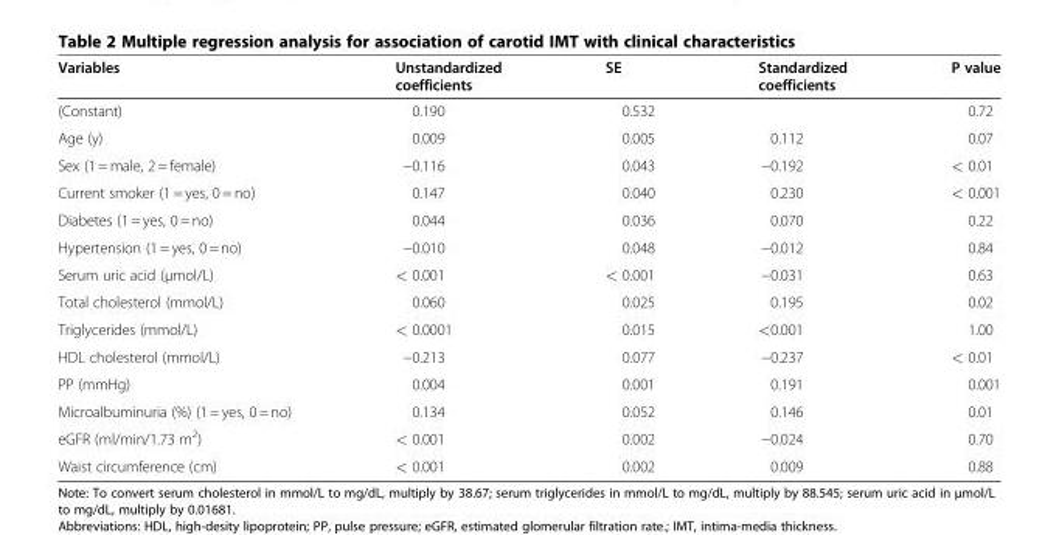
<table><thead><tr><td>Variables</td><td>Unstandardized coefficients</td><td>SE</td><td>Standardized coefficients</td><td>P value</td></tr></thead><tbody><tr><td>(Constant)</td><td>0.190</td><td>0.532</td><td></td><td>0.72</td></tr><tr><td>Age (y)</td><td>0.009</td><td>0.005</td><td>0.112</td><td>0.07</td></tr><tr><td>Sex (1 = male, 2 = female)</td><td>−0.116</td><td>0.043</td><td>−0.192</td><td>&lt; 0.01</td></tr><tr><td>Current smoker (1 = yes, 0 = no)</td><td>0.147</td><td>0.040</td><td>0.230</td><td>&lt; 0.001</td></tr><tr><td>Diabetes (1 = yes, 0 = no)</td><td>0.044</td><td>0.036</td><td>0.070</td><td>0.22</td></tr><tr><td>Hypertension (1 = yes, 0 = no)</td><td>−0.010</td><td>0.048</td><td>−0.012</td><td>0.84</td></tr><tr><td>Serum uric acid (μmol/L)</td><td>&lt; 0.001</td><td>&lt; 0.001</td><td>−0.031</td><td>0.63</td></tr><tr><td>Total cholesterol (mmol/L)</td><td>0.060</td><td>0.025</td><td>0.195</td><td>0.02</td></tr><tr><td>Triglycerides (mmol/L)</td><td>&lt; 0.0001</td><td>0.015</td><td>&lt;0.001</td><td>1.00</td></tr><tr><td>HDL cholesterol (mmol/L)</td><td>−0.213</td><td>0.077</td><td>−0.237</td><td>&lt; 0.01</td></tr><tr><td>PP (mmHg)</td><td>0.004</td><td>0.001</td><td>0.191</td><td>0.001</td></tr><tr><td>Microalbuminuria (%) (1 = yes, 0 = no)</td><td>0.134</td><td>0.052</td><td>0.146</td><td>0.01</td></tr><tr><td>eGFR (ml/min/1.73 m<sup>2</sup>)</td><td>&lt; 0.001</td><td>0.002</td><td>−0.024</td><td>0.70</td></tr><tr><td>Waist circumference (cm)</td><td>&lt; 0.001</td><td>0.002</td><td>0.009</td><td>0.88</td></tr></tbody></table>